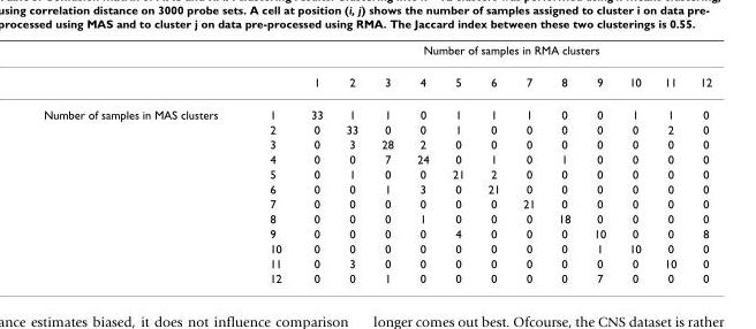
<table><thead><tr><td rowspan="2"></td><td rowspan="2"></td><td colspan="12">Number of samples in RMA clusters</td></tr><tr><td>1</td><td>2</td><td>3</td><td>4</td><td>5</td><td>6</td><td>7</td><td>8</td><td>9</td><td>10</td><td>11</td><td>12</td></tr></thead><tbody><tr><td rowspan="12">Number of samples in MAS clusters</td><td>1</td><td>33</td><td>1</td><td>1</td><td>0</td><td>1</td><td>1</td><td>1</td><td>0</td><td>0</td><td>1</td><td>1</td><td>0</td></tr><tr><td>2</td><td>0</td><td>33</td><td>0</td><td>0</td><td>1</td><td>0</td><td>0</td><td>0</td><td>0</td><td>0</td><td>2</td><td>0</td></tr><tr><td>3</td><td>0</td><td>3</td><td>28</td><td>2</td><td>0</td><td>0</td><td>0</td><td>0</td><td>0</td><td>0</td><td>0</td><td>0</td></tr><tr><td>4</td><td>0</td><td>0</td><td>7</td><td>24</td><td>0</td><td>1</td><td>0</td><td>1</td><td>0</td><td>0</td><td>0</td><td>0</td></tr><tr><td>5</td><td>0</td><td>1</td><td>0</td><td>0</td><td>21</td><td>2</td><td>0</td><td>0</td><td>0</td><td>0</td><td>0</td><td>0</td></tr><tr><td>6</td><td>0</td><td>0</td><td>1</td><td>3</td><td>0</td><td>21</td><td>0</td><td>0</td><td>0</td><td>0</td><td>0</td><td>0</td></tr><tr><td>7</td><td>0</td><td>0</td><td>0</td><td>0</td><td>0</td><td>0</td><td>21</td><td>0</td><td>0</td><td>0</td><td>0</td><td>0</td></tr><tr><td>8</td><td>0</td><td>0</td><td>0</td><td>1</td><td>0</td><td>0</td><td>0</td><td>18</td><td>0</td><td>0</td><td>0</td><td>0</td></tr><tr><td>9</td><td>0</td><td>0</td><td>0</td><td>0</td><td>4</td><td>0</td><td>0</td><td>0</td><td>10</td><td>0</td><td>0</td><td>8</td></tr><tr><td>10</td><td>0</td><td>0</td><td>0</td><td>0</td><td>0</td><td>0</td><td>0</td><td>0</td><td>1</td><td>10</td><td>0</td><td>0</td></tr><tr><td>11</td><td>0</td><td>3</td><td>0</td><td>0</td><td>0</td><td>0</td><td>0</td><td>0</td><td>0</td><td>0</td><td>10</td><td>0</td></tr><tr><td>12</td><td>0</td><td>0</td><td>1</td><td>0</td><td>0</td><td>0</td><td>0</td><td>0</td><td>7</td><td>0</td><td>0</td><td>0</td></tr></tbody></table>